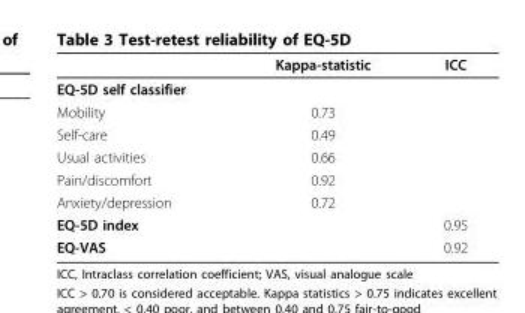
<table><thead><tr><td></td><td>Kappa-statistic</td><td>ICC</td></tr></thead><tbody><tr><td colspan="3">EQ-5D self classifier</td></tr><tr><td>Mobility</td><td>0.73</td><td></td></tr><tr><td>Self-care</td><td>0.49</td><td></td></tr><tr><td>Usual activities</td><td>0.66</td><td></td></tr><tr><td>Pain/discomfort</td><td>0.92</td><td></td></tr><tr><td>Anxiety/depression</td><td>0.72</td><td></td></tr><tr><td>EQ-5D index</td><td></td><td>0.95</td></tr><tr><td>EQ-VAS</td><td></td><td>0.92</td></tr></tbody></table>